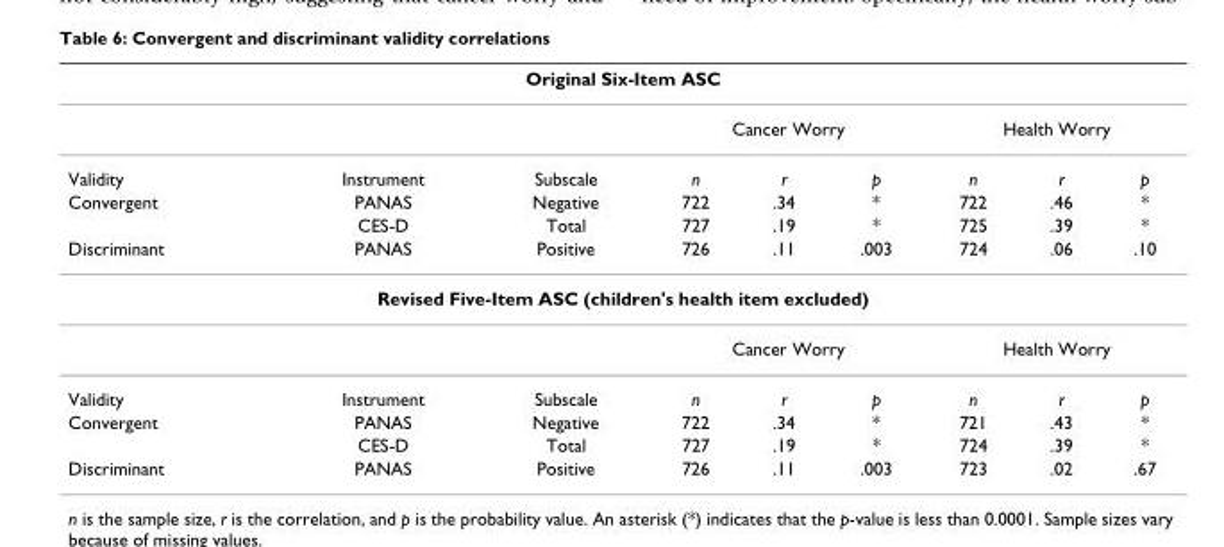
<table><thead><tr><td colspan="9">Original Six-Item ASC</td></tr><tr><td rowspan="2">Validity</td><td rowspan="2">Instrument</td><td rowspan="2">Subscale</td><td colspan="3">Cancer Worry</td><td colspan="3">Health Worry</td></tr><tr><td>n</td><td>r</td><td>p</td><td>n</td><td>r</td><td>p</td></tr></thead><tbody><tr><td rowspan="2">Convergent</td><td>PANAS</td><td>Negative</td><td>722</td><td>.34</td><td>*</td><td>722</td><td>.46</td><td>*</td></tr><tr><td>CES-D</td><td>Total</td><td>727</td><td>.19</td><td>*</td><td>725</td><td>.39</td><td>*</td></tr><tr><td>Discriminant</td><td>PANAS</td><td>Positive</td><td>726</td><td>.11</td><td>.003</td><td>724</td><td>.06</td><td>.10</td></tr><tr><td colspan="9">Revised Five-Item ASC (children&#x27;s health item excluded)</td></tr><tr><td></td><td></td><td></td><td colspan="3">Cancer Worry</td><td colspan="3">Health Worry</td></tr><tr><td>Validity</td><td>Instrument</td><td>Subscale</td><td>n</td><td>r</td><td>p</td><td>n</td><td>r</td><td>p</td></tr><tr><td rowspan="2">Convergent</td><td>PANAS</td><td>Negative</td><td>722</td><td>.34</td><td>*</td><td>721</td><td>.43</td><td>*</td></tr><tr><td>CES-D</td><td>Total</td><td>727</td><td>.19</td><td>*</td><td>724</td><td>.39</td><td>*</td></tr><tr><td>Discriminant</td><td>PANAS</td><td>Positive</td><td>726</td><td>.11</td><td>.003</td><td>723</td><td>.02</td><td>.67</td></tr></tbody></table>